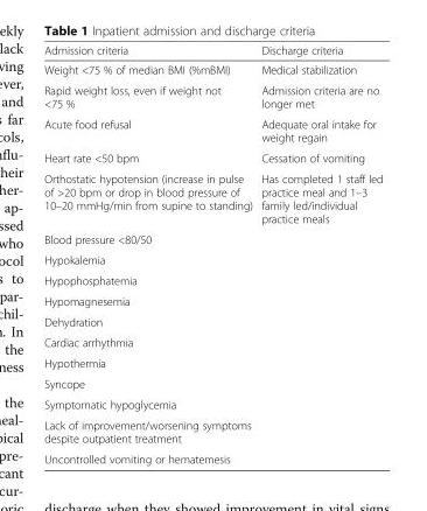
<table><thead><tr><td>Admission criteria</td><td>Discharge criteria</td></tr></thead><tbody><tr><td>Weight &lt;75 % of median BMI (%mBMI)</td><td>Medical stabilization</td></tr><tr><td>Rapid weight loss, even if weight not &lt;75 %</td><td>Admission criteria are no longer met</td></tr><tr><td>Acute food refusal</td><td>Adequate oral intake for weight regain</td></tr><tr><td>Heart rate &lt;50 bpm</td><td>Cessation of vomiting</td></tr><tr><td>Orthostatic hypotension (increase in pulse of &gt;20 bpm or drop in blood pressure of 10–20 mmHg/min from supine to standing)</td><td>Has completed 1 staff led practice meal and 1–3 family led/individual practice meals</td></tr><tr><td>Blood pressure &lt;80/50</td><td rowspan="11"></td></tr><tr><td>Hypokalemia</td></tr><tr><td>Hypophosphatemia</td></tr><tr><td>Hypomagnesemia</td></tr><tr><td>Dehydration</td></tr><tr><td>Cardiac arrhythmia</td></tr><tr><td>Hypothermia</td></tr><tr><td>Syncope</td></tr><tr><td>Symptomatic hypoglycemia</td></tr><tr><td>Lack of improvement/worsening symptoms despite outpatient treatment</td></tr><tr><td>Uncontrolled vomiting or hematemesis</td></tr></tbody></table>